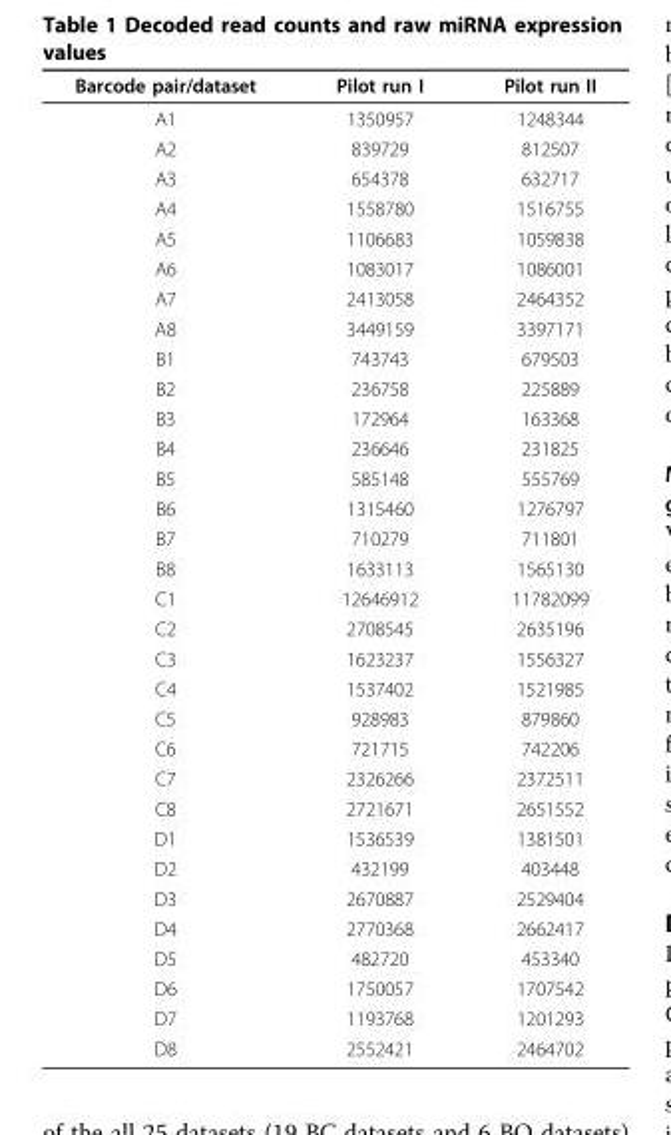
<table><thead><tr><td>Barcode pair/dataset</td><td>Pilot run I</td><td>Pilot run II</td></tr></thead><tbody><tr><td>A1</td><td>1350957</td><td>1248344</td></tr><tr><td>A2</td><td>839729</td><td>812507</td></tr><tr><td>A3</td><td>654378</td><td>632717</td></tr><tr><td>A4</td><td>1558780</td><td>1516755</td></tr><tr><td>A5</td><td>1106683</td><td>1059838</td></tr><tr><td>A6</td><td>1083017</td><td>1086001</td></tr><tr><td>A7</td><td>2413058</td><td>2464352</td></tr><tr><td>A8</td><td>3449159</td><td>3397171</td></tr><tr><td>B1</td><td>743743</td><td>679503</td></tr><tr><td>B2</td><td>236758</td><td>225889</td></tr><tr><td>B3</td><td>172964</td><td>163368</td></tr><tr><td>B4</td><td>236646</td><td>231825</td></tr><tr><td>B5</td><td>585148</td><td>555769</td></tr><tr><td>B6</td><td>1315460</td><td>1276797</td></tr><tr><td>B7</td><td>710279</td><td>711801</td></tr><tr><td>B8</td><td>1633113</td><td>1565130</td></tr><tr><td>C1</td><td>12646912</td><td>11782099</td></tr><tr><td>C2</td><td>2708545</td><td>2635196</td></tr><tr><td>C3</td><td>1623237</td><td>1556327</td></tr><tr><td>C4</td><td>1537402</td><td>1521985</td></tr><tr><td>C5</td><td>928983</td><td>879860</td></tr><tr><td>C6</td><td>721715</td><td>742206</td></tr><tr><td>C7</td><td>2326266</td><td>2372511</td></tr><tr><td>C8</td><td>2721671</td><td>2651552</td></tr><tr><td>D1</td><td>1536539</td><td>1381501</td></tr><tr><td>D2</td><td>432199</td><td>403448</td></tr><tr><td>D3</td><td>2670887</td><td>2529404</td></tr><tr><td>D4</td><td>2770368</td><td>2662417</td></tr><tr><td>D5</td><td>482720</td><td>453340</td></tr><tr><td>D6</td><td>1750057</td><td>1707542</td></tr><tr><td>D7</td><td>1193768</td><td>1201293</td></tr><tr><td>D8</td><td>2552421</td><td>2464702</td></tr></tbody></table>